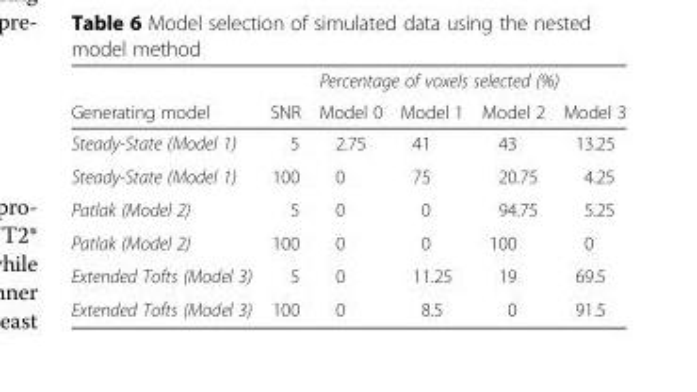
<table><thead><tr><td rowspan="2">Generating model</td><td rowspan="2">SNR</td><td colspan="4">Percentage of voxels selected (%)</td></tr><tr><td>Model 0</td><td>Model 1</td><td>Model 2</td><td>Model 3</td></tr></thead><tbody><tr><td>Steady-State (Model 1)</td><td>5</td><td>2.75</td><td>41</td><td>43</td><td>13.25</td></tr><tr><td>Steady-State (Model 1)</td><td>100</td><td>0</td><td>75</td><td>20.75</td><td>4.25</td></tr><tr><td>Patlak (Model 2)</td><td>5</td><td>0</td><td>0</td><td>94.75</td><td>5.25</td></tr><tr><td>Patlak (Model 2)</td><td>100</td><td>0</td><td>0</td><td>100</td><td>0</td></tr><tr><td>Extended Tofts (Model 3)</td><td>5</td><td>0</td><td>11.25</td><td>19</td><td>69.5</td></tr><tr><td>Extended Tofts (Model 3)</td><td>100</td><td>0</td><td>8.5</td><td>0</td><td>91.5</td></tr></tbody></table>